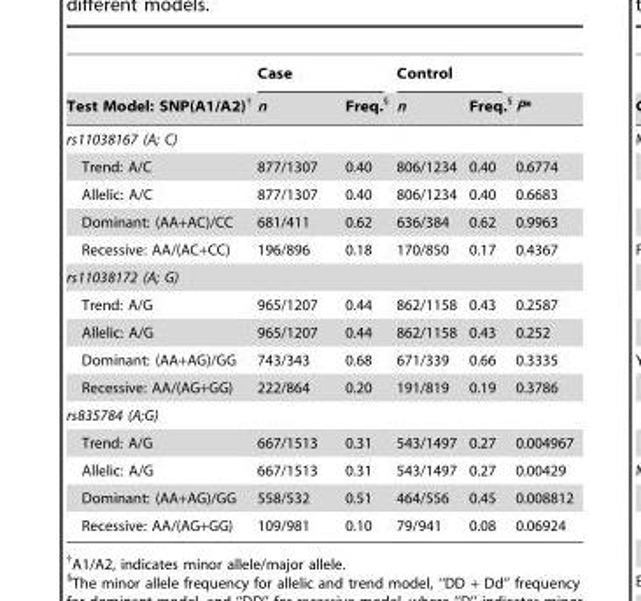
<table><thead><tr><td rowspan="2">Test Model: SNP(A1/A2)†</td><td colspan="2">Case</td><td colspan="2">Control</td><td rowspan="2">P*</td></tr><tr><td>n</td><td>Freq.§</td><td>n</td><td>Freq.§</td></tr></thead><tbody><tr><td colspan="6">rs11038167 (A; C)</td></tr><tr><td>Trend: A/C</td><td>877/1307</td><td>0.40</td><td>806/1234</td><td>0.40</td><td>0.6774</td></tr><tr><td>Allelic: A/C</td><td>877/1307</td><td>0.40</td><td>806/1234</td><td>0.40</td><td>0.6683</td></tr><tr><td>Dominant: (AA+AC)/CC</td><td>681/411</td><td>0.62</td><td>636/384</td><td>0.62</td><td>0.9963</td></tr><tr><td>Recessive: AA/(AC+CC)</td><td>196/896</td><td>0.18</td><td>170/850</td><td>0.17</td><td>0.4367</td></tr><tr><td colspan="6">rs11038172 (A; G)</td></tr><tr><td>Trend: A/G</td><td>965/1207</td><td>0.44</td><td>862/1158</td><td>0.43</td><td>0.2587</td></tr><tr><td>Allelic: A/G</td><td>965/1207</td><td>0.44</td><td>862/1158</td><td>0.43</td><td>0.252</td></tr><tr><td>Dominant: (AA+AG)/GG</td><td>743/343</td><td>0.68</td><td>671/339</td><td>0.66</td><td>0.3335</td></tr><tr><td>Recessive: AA/(AG+GG)</td><td>222/864</td><td>0.20</td><td>191/819</td><td>0.19</td><td>0.3786</td></tr><tr><td colspan="6">rs835784 (A;G)</td></tr><tr><td>Trend: A/G</td><td>667/1513</td><td>0.31</td><td>543/1497</td><td>0.27</td><td>0.004967</td></tr><tr><td>Allelic: A/G</td><td>667/1513</td><td>0.31</td><td>543/1497</td><td>0.27</td><td>0.00429</td></tr><tr><td>Dominant: (AA+AG)/GG</td><td>558/532</td><td>0.51</td><td>464/556</td><td>0.45</td><td>0.008812</td></tr><tr><td>Recessive: AA/(AG+GG)</td><td>109/981</td><td>0.10</td><td>79/941</td><td>0.08</td><td>0.06924</td></tr></tbody></table>